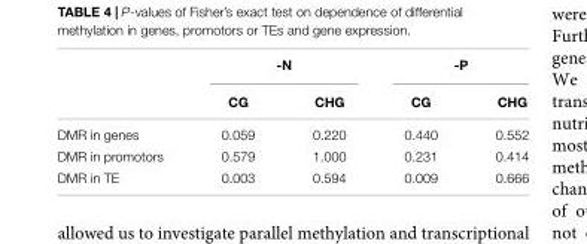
<table><thead><tr><td rowspan="2"></td><td colspan="2">-N</td><td colspan="2">-P</td></tr><tr><td>CG</td><td>CHG</td><td>CG</td><td>CHG</td></tr></thead><tbody><tr><td>DMR in genes</td><td>0.059</td><td>0.220</td><td>0.440</td><td>0.552</td></tr><tr><td>DMR in promotors</td><td>0.579</td><td>1.000</td><td>0.231</td><td>0.414</td></tr><tr><td>DMR in TE</td><td>0.003</td><td>0.594</td><td>0.009</td><td>0.666</td></tr></tbody></table>